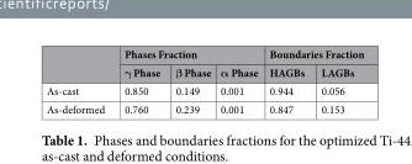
<table><thead><tr><td rowspan="2"></td><td colspan="3">Phases Fraction</td><td colspan="2">Boundaries Fraction</td></tr><tr><td>γ Phase</td><td>β Phase</td><td>α Phase</td><td>HAGBs</td><td>LAGBs</td></tr></thead><tbody><tr><td>As-cast</td><td>0.850</td><td>0.149</td><td>0.001</td><td>0.944</td><td>0.056</td></tr><tr><td>As-deformed</td><td>0.760</td><td>0.239</td><td>0.001</td><td>0.847</td><td>0.153</td></tr></tbody></table>